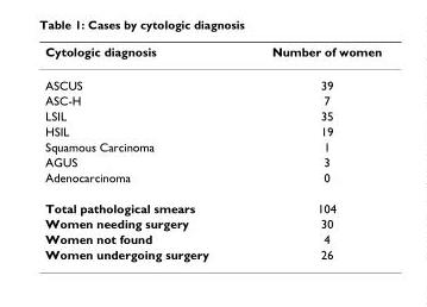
<table><thead><tr><td>Cytologic diagnosis</td><td>Number of women</td></tr></thead><tbody><tr><td>ASCUS</td><td>39</td></tr><tr><td>ASC-H</td><td>7</td></tr><tr><td>LSIL</td><td>35</td></tr><tr><td>HSIL</td><td>19</td></tr><tr><td>Squamous Carcinoma</td><td>1</td></tr><tr><td>AGUS</td><td>3</td></tr><tr><td>Adenocarcinoma</td><td>0</td></tr><tr><td>Total pathological smears</td><td>104</td></tr><tr><td>Women needing surgery</td><td>30</td></tr><tr><td>Women not found</td><td>4</td></tr><tr><td>Women undergoing surgery</td><td>26</td></tr></tbody></table>